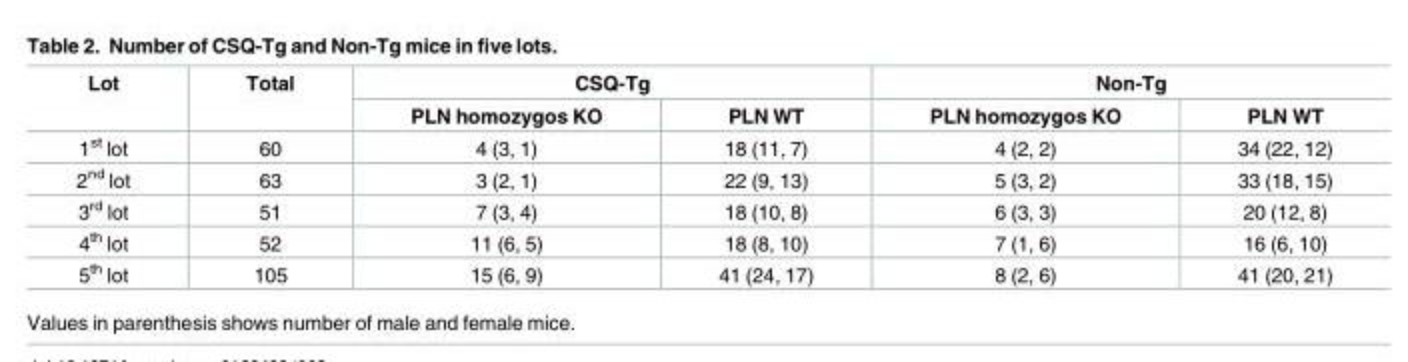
<table><thead><tr><td rowspan="2">Lot</td><td rowspan="2">Total</td><td colspan="2">CSQ-Tg</td><td colspan="2">Non-Tg</td></tr><tr><td>PLN homozygos KO</td><td>PLN WT</td><td>PLN homozygos KO</td><td>PLN WT</td></tr></thead><tbody><tr><td>1<sup>st</sup> lot</td><td>60</td><td>4 (3, 1)</td><td>18 (11, 7)</td><td>4 (2, 2)</td><td>34 (22, 12)</td></tr><tr><td>2<sup>nd</sup> lot</td><td>63</td><td>3 (2, 1)</td><td>22 (9, 13)</td><td>5 (3, 2)</td><td>33 (18, 15)</td></tr><tr><td>3<sup>rd</sup> lot</td><td>51</td><td>7 (3, 4)</td><td>18 (10, 8)</td><td>6 (3, 3)</td><td>20 (12, 8)</td></tr><tr><td>4<sup>th</sup> lot</td><td>52</td><td>11 (6, 5)</td><td>18 (8, 10)</td><td>7 (1, 6)</td><td>16 (6, 10)</td></tr><tr><td>5<sup>th</sup> lot</td><td>105</td><td>15 (6, 9)</td><td>41 (24, 17)</td><td>8 (2, 6)</td><td>41 (20, 21)</td></tr></tbody></table>